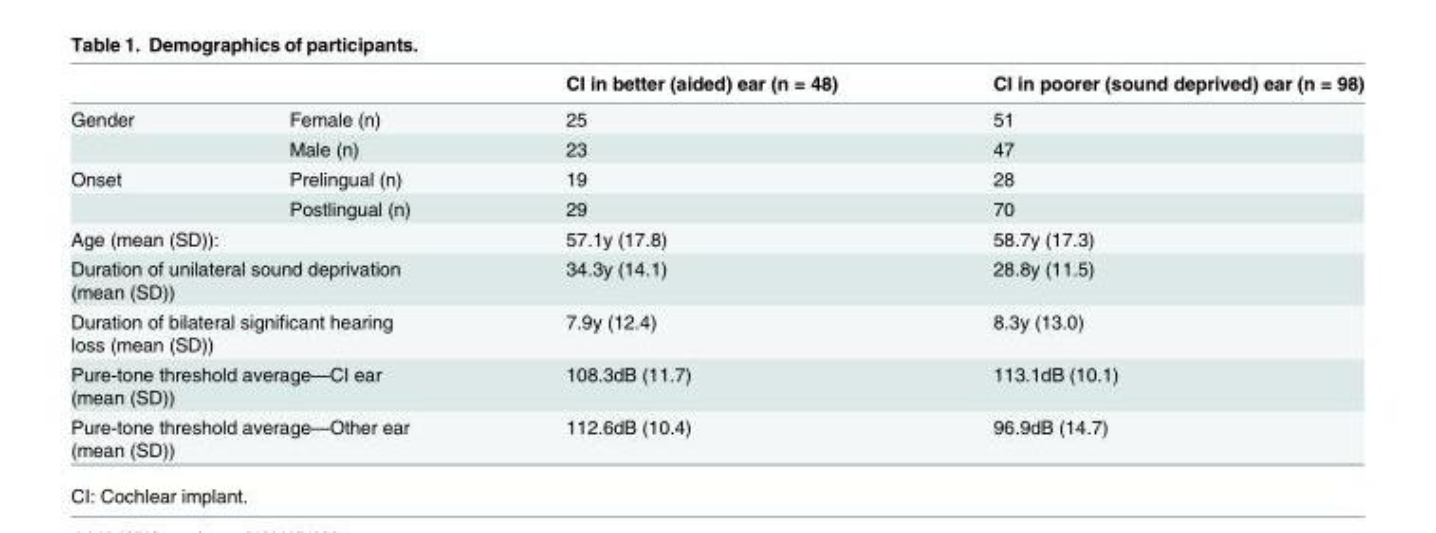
<table><thead><tr><td></td><td></td><td>CI in better (aided) ear (n = 48)</td><td>CI in poorer (sound deprived) ear (n = 98)</td></tr></thead><tbody><tr><td rowspan="2">Gender</td><td>Female (n)</td><td>25</td><td>51</td></tr><tr><td>Male (n)</td><td>23</td><td>47</td></tr><tr><td rowspan="2">Onset</td><td>Prelingual (n)</td><td>19</td><td>28</td></tr><tr><td>Postlingual (n)</td><td>29</td><td>70</td></tr><tr><td colspan="2">Age (mean (SD)):</td><td>57.1y (17.8)</td><td>58.7y (17.3)</td></tr><tr><td colspan="2">Duration of unilateral sound deprivation (mean (SD))</td><td>34.3y (14.1)</td><td>28.8y (11.5)</td></tr><tr><td colspan="2">Duration of bilateral significant hearing loss (mean (SD))</td><td>7.9y (12.4)</td><td>8.3y (13.0)</td></tr><tr><td colspan="2">Pure-tone threshold average—CI ear (mean (SD))</td><td>108.3dB (11.7)</td><td>113.1dB (10.1)</td></tr><tr><td colspan="2">Pure-tone threshold average—Other ear (mean (SD))</td><td>112.6dB (10.4)</td><td>96.9dB (14.7)</td></tr></tbody></table>